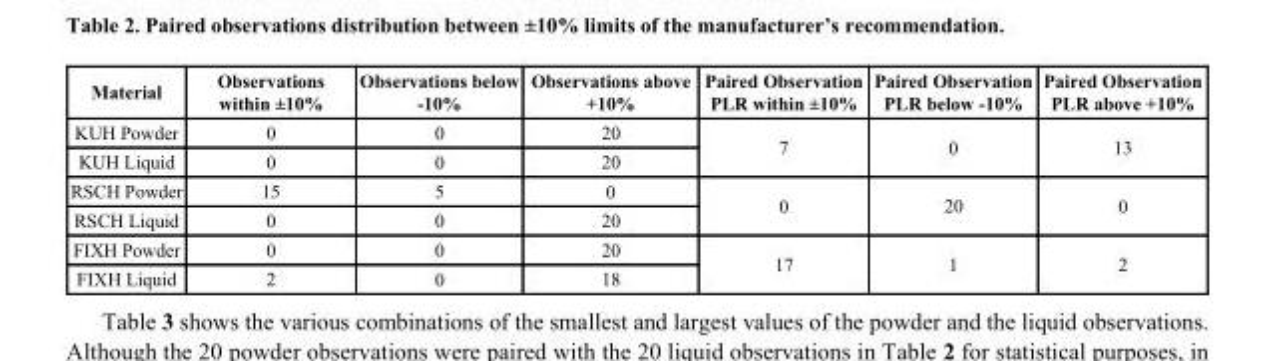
<table><thead><tr><td>Material</td><td>Observations within ±10%</td><td>Observations below -10%</td><td>Observations above +10%</td><td>Paired Observation PLR within ±10%</td><td>Paired Observation PLR below -10%</td><td>Paired Observation PLR above +10%</td></tr></thead><tbody><tr><td>KUH Powder</td><td>0</td><td>0</td><td>20</td><td rowspan="2">7</td><td rowspan="2">0</td><td rowspan="2">13</td></tr><tr><td>KUH Liquid</td><td>0</td><td>0</td><td>20</td></tr><tr><td>RSCH Powder</td><td>15</td><td>5</td><td>0</td><td rowspan="2">0</td><td rowspan="2">20</td><td rowspan="2">0</td></tr><tr><td>RSCH Liquid</td><td>0</td><td>0</td><td>20</td></tr><tr><td>FIXH Powder</td><td>0</td><td>0</td><td>20</td><td rowspan="2">17</td><td rowspan="2">1</td><td rowspan="2">2</td></tr><tr><td>FIXH Liquid</td><td>2</td><td>0</td><td>18</td></tr></tbody></table>